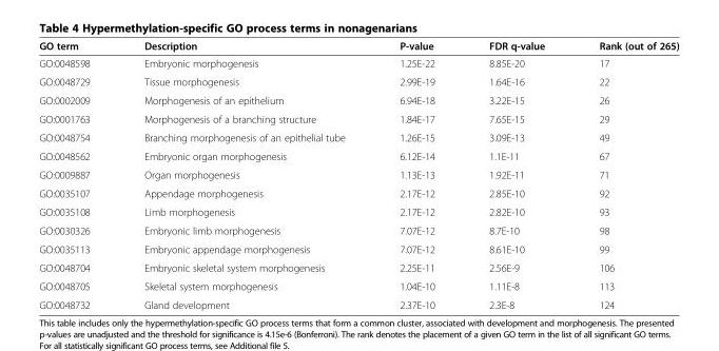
<table><thead><tr><td>GO term</td><td>Description</td><td>P-value</td><td>FDR q-value</td><td>Rank (out of 265)</td></tr></thead><tbody><tr><td>GO:0048598</td><td>Embryonic morphogenesis</td><td>1.25E-22</td><td>8.85E-20</td><td>17</td></tr><tr><td>GO:0048729</td><td>Tissue morphogenesis</td><td>2.99E-19</td><td>1.64E-16</td><td>22</td></tr><tr><td>GO:0002009</td><td>Morphogenesis of an epithelium</td><td>6.94E-18</td><td>3.22E-15</td><td>26</td></tr><tr><td>GO:0001763</td><td>Morphogenesis of a branching structure</td><td>1.84E-17</td><td>7.65E-15</td><td>29</td></tr><tr><td>GO:0048754</td><td>Branching morphogenesis of an epithelial tube</td><td>1.26E-15</td><td>3.09E-13</td><td>49</td></tr><tr><td>GO:0048562</td><td>Embryonic organ morphogenesis</td><td>6.12E-14</td><td>1.1E-11</td><td>67</td></tr><tr><td>GO:0009887</td><td>Organ morphogenesis</td><td>1.13E-13</td><td>1.92E-11</td><td>71</td></tr><tr><td>GO:0035107</td><td>Appendage morphogenesis</td><td>2.17E-12</td><td>2.85E-10</td><td>92</td></tr><tr><td>GO:0035108</td><td>Limb morphogenesis</td><td>2.17E-12</td><td>2.82E-10</td><td>93</td></tr><tr><td>GO:0030326</td><td>Embryonic limb morphogenesis</td><td>7.07E-12</td><td>8.7E-10</td><td>98</td></tr><tr><td>GO:0035113</td><td>Embryonic appendage morphogenesis</td><td>7.07E-12</td><td>8.61E-10</td><td>99</td></tr><tr><td>GO:0048704</td><td>Embryonic skeletal system morphogenesis</td><td>2.25E-11</td><td>2.56E-9</td><td>106</td></tr><tr><td>GO:0048705</td><td>Skeletal system morphogenesis</td><td>1.04E-10</td><td>1.11E-8</td><td>113</td></tr><tr><td>GO:0048732</td><td>Gland development</td><td>2.37E-10</td><td>2.3E-8</td><td>124</td></tr></tbody></table>